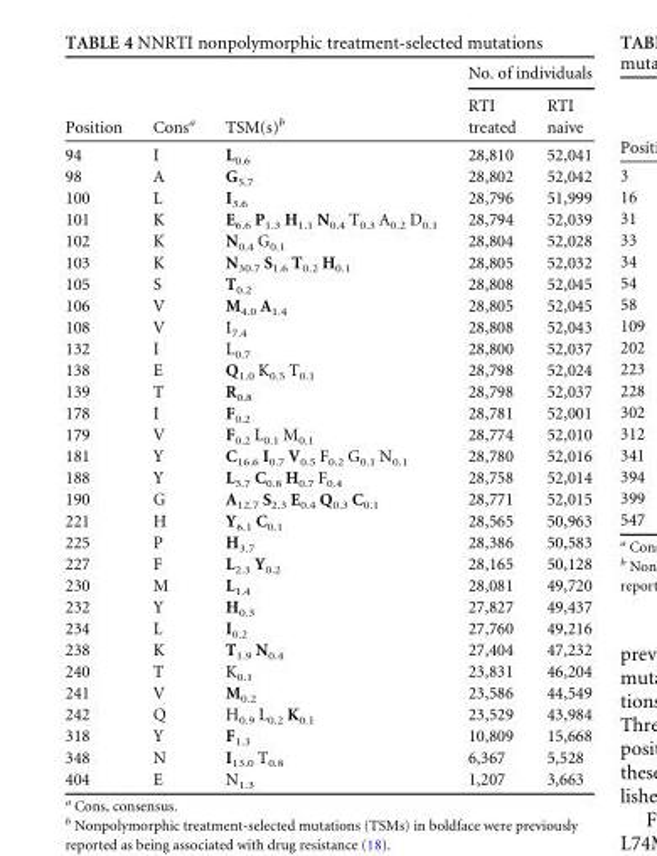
<table><thead><tr><td rowspan="2">Position</td><td rowspan="2">Cons<sup>a</sup></td><td rowspan="2">TSM(s)<sup>b</sup></td><td colspan="2">No. of individuals</td></tr><tr><td>RTI treated</td><td>RTI naive</td></tr></thead><tbody><tr><td>94</td><td>I</td><td>L<sub>0.6</sub></td><td>28,810</td><td>52,041</td></tr><tr><td>98</td><td>A</td><td>G<sub>5.7</sub></td><td>28,802</td><td>52,042</td></tr><tr><td>100</td><td>L</td><td>I<sub>3.6</sub></td><td>28,796</td><td>51,999</td></tr><tr><td>101</td><td>K</td><td>E<sub>6.6</sub> P<sub>1.3</sub> H<sub>1.1</sub> N<sub>0.4</sub> T<sub>0.3</sub> A<sub>0.2</sub> D<sub>0.1</sub></td><td>28,794</td><td>52,039</td></tr><tr><td>102</td><td>K</td><td>N<sub>0.4</sub> G<sub>0.1</sub></td><td>28,804</td><td>52,028</td></tr><tr><td>103</td><td>K</td><td>N<sub>30.7</sub> S<sub>1.6</sub> T<sub>0.2</sub> H<sub>0.1</sub></td><td>28,805</td><td>52,032</td></tr><tr><td>105</td><td>S</td><td>T<sub>0.2</sub></td><td>28,808</td><td>52,045</td></tr><tr><td>106</td><td>V</td><td>M<sub>4.0</sub> A<sub>1.4</sub></td><td>28,805</td><td>52,045</td></tr><tr><td>108</td><td>V</td><td>I<sub>7.4</sub></td><td>28,808</td><td>52,043</td></tr><tr><td>132</td><td>I</td><td>L<sub>0.7</sub></td><td>28,800</td><td>52,037</td></tr><tr><td>138</td><td>E</td><td>Q<sub>1.0</sub> K<sub>0.5</sub> T<sub>0.1</sub></td><td>28,798</td><td>52,024</td></tr><tr><td>139</td><td>T</td><td>R<sub>0.8</sub></td><td>28,798</td><td>52,037</td></tr><tr><td>178</td><td>I</td><td>F<sub>0.2</sub></td><td>28,781</td><td>52,001</td></tr><tr><td>179</td><td>V</td><td>F<sub>0.2</sub> L<sub>0.1</sub> M<sub>0.1</sub></td><td>28,774</td><td>52,010</td></tr><tr><td>181</td><td>Y</td><td>C<sub>16.6</sub> I<sub>0.7</sub> V<sub>0.5</sub> F<sub>0.2</sub> G<sub>0.1</sub> N<sub>0.1</sub></td><td>28,780</td><td>52,016</td></tr><tr><td>188</td><td>Y</td><td>L<sub>3.7</sub> C<sub>0.8</sub> H<sub>0.7</sub> F<sub>0.4</sub></td><td>28,758</td><td>52,014</td></tr><tr><td>190</td><td>G</td><td>A<sub>12.7</sub> S<sub>2.3</sub> E<sub>0.4</sub> Q<sub>0.3</sub> C<sub>0.1</sub></td><td>28,771</td><td>52,015</td></tr><tr><td>221</td><td>H</td><td>Y<sub>6.1</sub> C<sub>0.1</sub></td><td>28,565</td><td>50,963</td></tr><tr><td>225</td><td>P</td><td>H<sub>3.7</sub></td><td>28,386</td><td>50,583</td></tr><tr><td>227</td><td>F</td><td>L<sub>2.3</sub> Y<sub>0.2</sub></td><td>28,165</td><td>50,128</td></tr><tr><td>230</td><td>M</td><td>L<sub>1.4</sub></td><td>28,081</td><td>49,720</td></tr><tr><td>232</td><td>Y</td><td>H<sub>0.3</sub></td><td>27,827</td><td>49,437</td></tr><tr><td>234</td><td>L</td><td>I<sub>0.2</sub></td><td>27,760</td><td>49,216</td></tr><tr><td>238</td><td>K</td><td>T<sub>1.9</sub> N<sub>0.4</sub></td><td>27,404</td><td>47,232</td></tr><tr><td>240</td><td>T</td><td>K<sub>0.1</sub></td><td>23,831</td><td>46,204</td></tr><tr><td>241</td><td>V</td><td>M<sub>0.2</sub></td><td>23,586</td><td>44,549</td></tr><tr><td>242</td><td>Q</td><td>H<sub>0.9</sub> L<sub>0.2</sub> K<sub>0.1</sub></td><td>23,529</td><td>43,984</td></tr><tr><td>318</td><td>Y</td><td>F<sub>1.3</sub></td><td>10,809</td><td>15,668</td></tr><tr><td>348</td><td>N</td><td>I<sub>13.0</sub> T<sub>0.8</sub></td><td>6,367</td><td>5,528</td></tr><tr><td>404</td><td>E</td><td>N<sub>1.3</sub></td><td>1,207</td><td>3,663</td></tr></tbody></table>